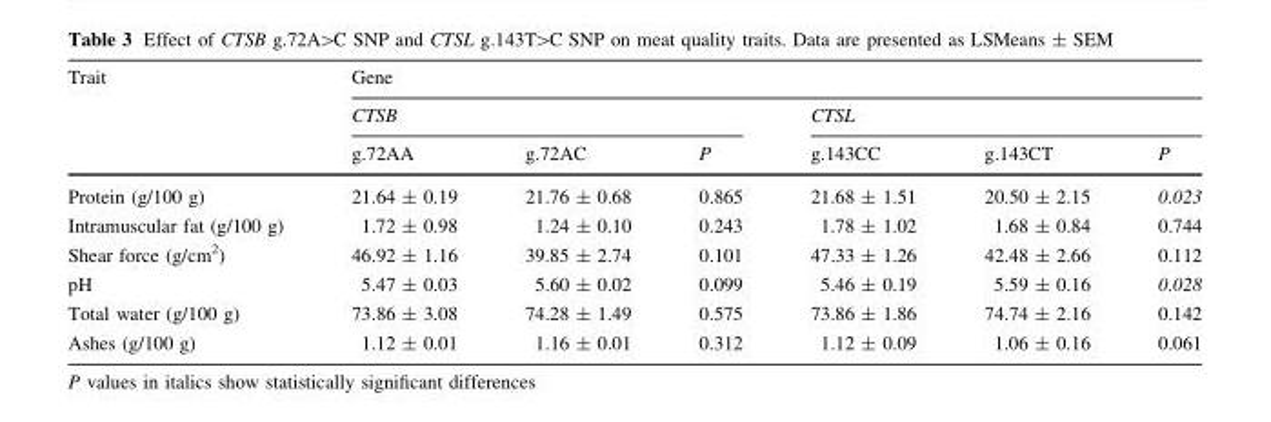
<table><thead><tr><td rowspan="3">Trait</td><td colspan="6">Gene</td></tr><tr><td colspan="3">CTSB</td><td colspan="3">CTSL</td></tr><tr><td>g.72AA</td><td>g.72AC</td><td>P</td><td>g.143CC</td><td>g.143CT</td><td>P</td></tr></thead><tbody><tr><td>Protein (g/100 g)</td><td>21.64 ± 0.19</td><td>21.76 ± 0.68</td><td>0.865</td><td>21.68 ± 1.51</td><td>20.50 ± 2.15</td><td>0.023</td></tr><tr><td>Intramuscular fat (g/100 g)</td><td>1.72 ± 0.98</td><td>1.24 ± 0.10</td><td>0.243</td><td>1.78 ± 1.02</td><td>1.68 ± 0.84</td><td>0.744</td></tr><tr><td>Shear force (g/cm<sup>2</sup>)</td><td>46.92 ± 1.16</td><td>39.85 ± 2.74</td><td>0.101</td><td>47.33 ± 1.26</td><td>42.48 ± 2.66</td><td>0.112</td></tr><tr><td>pH</td><td>5.47 ± 0.03</td><td>5.60 ± 0.02</td><td>0.099</td><td>5.46 ± 0.19</td><td>5.59 ± 0.16</td><td>0.028</td></tr><tr><td>Total water (g/100 g)</td><td>73.86 ± 3.08</td><td>74.28 ± 1.49</td><td>0.575</td><td>73.86 ± 1.86</td><td>74.74 ± 2.16</td><td>0.142</td></tr><tr><td>Ashes (g/100 g)</td><td>1.12 ± 0.01</td><td>1.16 ± 0.01</td><td>0.312</td><td>1.12 ± 0.09</td><td>1.06 ± 0.16</td><td>0.061</td></tr></tbody></table>